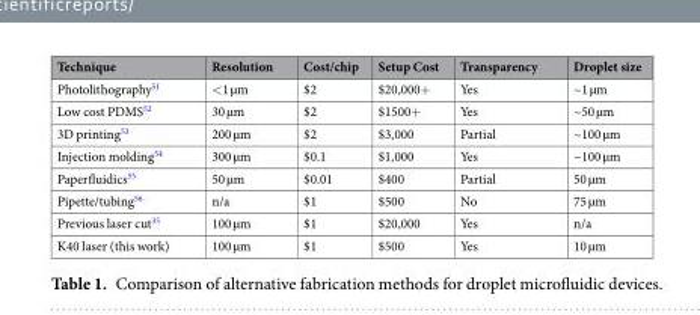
<table><thead><tr><td>Technique</td><td>Resolution</td><td>Cost/chip</td><td>Setup Cost</td><td>Transparency</td><td>Droplet size</td></tr></thead><tbody><tr><td>Photolithography<sup>51</sup></td><td>&lt;1 µm</td><td>$2</td><td>$20,000+</td><td>Yes</td><td>~1 µm</td></tr><tr><td>Low cost PDMS<sup>52</sup></td><td>30 µm</td><td>$2</td><td>$1500+</td><td>Yes</td><td>~50 µm</td></tr><tr><td>3D printing<sup>53</sup></td><td>200 µm</td><td>$2</td><td>$3,000</td><td>Partial</td><td>~100 µm</td></tr><tr><td>Injection molding<sup>54</sup></td><td>300 µm</td><td>$0.1</td><td>$1,000</td><td>Yes</td><td>~100 µm</td></tr><tr><td>Paperfluidics<sup>55</sup></td><td>50 µm</td><td>$0.01</td><td>$400</td><td>Partial</td><td>50 µm</td></tr><tr><td>Pipette/tubing<sup>56</sup></td><td>n/a</td><td>$1</td><td>$500</td><td>No</td><td>75 µm</td></tr><tr><td>Previous laser cut<sup>35</sup></td><td>100 µm</td><td>$1</td><td>$20,000</td><td>Yes</td><td>n/a</td></tr><tr><td>K40 laser (this work)</td><td>100 µm</td><td>$1</td><td>$500</td><td>Yes</td><td>10 µm</td></tr></tbody></table>